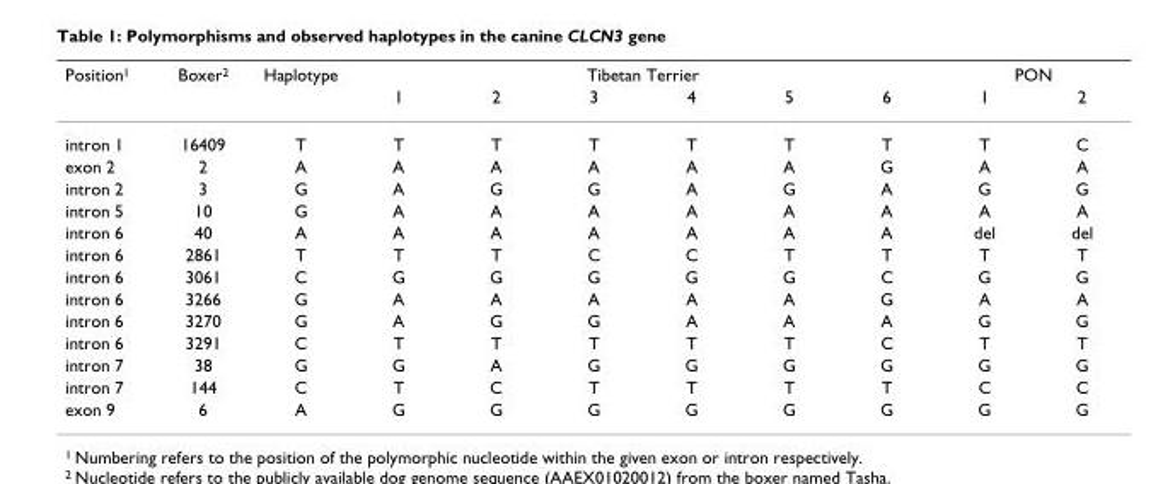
<table><thead><tr><td rowspan="2">Position<sup>1</sup></td><td rowspan="2">Boxer<sup>2</sup></td><td rowspan="2">Haplotype</td><td colspan="6">Tibetan Terrier</td><td colspan="2">PON</td></tr><tr><td>1</td><td>2</td><td>3</td><td>4</td><td>5</td><td>6</td><td>1</td><td>2</td></tr></thead><tbody><tr><td>intron 1</td><td>16409</td><td>T</td><td>T</td><td>T</td><td>T</td><td>T</td><td>T</td><td>T</td><td>T</td><td>C</td></tr><tr><td>exon 2</td><td>2</td><td>A</td><td>A</td><td>A</td><td>A</td><td>A</td><td>A</td><td>G</td><td>A</td><td>A</td></tr><tr><td>intron 2</td><td>3</td><td>G</td><td>A</td><td>G</td><td>G</td><td>A</td><td>G</td><td>A</td><td>G</td><td>G</td></tr><tr><td>intron 5</td><td>10</td><td>G</td><td>A</td><td>A</td><td>A</td><td>A</td><td>A</td><td>A</td><td>A</td><td>A</td></tr><tr><td>intron 6</td><td>40</td><td>A</td><td>A</td><td>A</td><td>A</td><td>A</td><td>A</td><td>A</td><td>del</td><td>del</td></tr><tr><td>intron 6</td><td>2861</td><td>T</td><td>T</td><td>T</td><td>C</td><td>C</td><td>T</td><td>T</td><td>T</td><td>T</td></tr><tr><td>intron 6</td><td>3061</td><td>C</td><td>G</td><td>G</td><td>G</td><td>G</td><td>G</td><td>C</td><td>G</td><td>G</td></tr><tr><td>intron 6</td><td>3266</td><td>G</td><td>A</td><td>A</td><td>A</td><td>A</td><td>A</td><td>G</td><td>A</td><td>A</td></tr><tr><td>intron 6</td><td>3270</td><td>G</td><td>A</td><td>G</td><td>G</td><td>A</td><td>A</td><td>A</td><td>G</td><td>G</td></tr><tr><td>intron 6</td><td>3291</td><td>C</td><td>T</td><td>T</td><td>T</td><td>T</td><td>T</td><td>C</td><td>T</td><td>T</td></tr><tr><td>intron 7</td><td>38</td><td>G</td><td>G</td><td>A</td><td>G</td><td>G</td><td>G</td><td>G</td><td>G</td><td>G</td></tr><tr><td>intron 7</td><td>144</td><td>C</td><td>T</td><td>C</td><td>T</td><td>T</td><td>T</td><td>T</td><td>C</td><td>C</td></tr><tr><td>exon 9</td><td>6</td><td>A</td><td>G</td><td>G</td><td>G</td><td>G</td><td>G</td><td>G</td><td>G</td><td>G</td></tr></tbody></table>